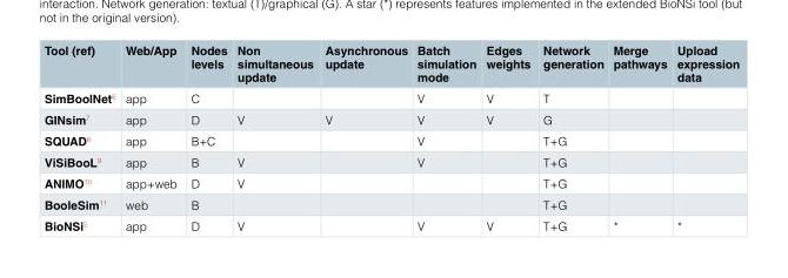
<table><thead><tr><td>Tool (ref)</td><td>Web/App</td><td>Nodes levels</td><td>Non simultaneous update</td><td>Asynchronous update</td><td>Batch simulation mode</td><td>Edges weights</td><td>Network generation</td><td>Merge pathways</td><td>Upload expression data</td></tr></thead><tbody><tr><td>SimBoolNet<sup>6</sup></td><td>app</td><td>C</td><td></td><td></td><td>V</td><td>V</td><td>T</td><td></td><td></td></tr><tr><td>GINsim<sup>7</sup></td><td>app</td><td>D</td><td>V</td><td>V</td><td>V</td><td>V</td><td>G</td><td></td><td></td></tr><tr><td>SQUAD<sup>8</sup></td><td>app</td><td>B+C</td><td></td><td></td><td>V</td><td></td><td>T+G</td><td></td><td></td></tr><tr><td>ViSiBooL<sup>9</sup></td><td>app</td><td>B</td><td>V</td><td></td><td>V</td><td></td><td>T+G</td><td></td><td></td></tr><tr><td>ANIMO<sup>10</sup></td><td>app+web</td><td>D</td><td>V</td><td></td><td></td><td></td><td>T+G</td><td></td><td></td></tr><tr><td>BooleSim<sup>11</sup></td><td>web</td><td>B</td><td></td><td></td><td></td><td></td><td>T+G</td><td></td><td></td></tr><tr><td>BioNSi<sup>5</sup></td><td>app</td><td>D</td><td>V</td><td></td><td>V</td><td>V</td><td>T+G</td><td>*</td><td>*</td></tr></tbody></table>